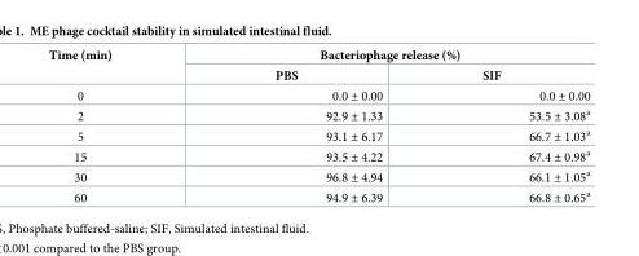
<table><thead><tr><td rowspan="2">Time (min)</td><td colspan="2">Bacteriophage release (%)</td></tr><tr><td>PBS</td><td>SIF</td></tr></thead><tbody><tr><td>0</td><td>0.0 ± 0.00</td><td>0.0 ± 0.00</td></tr><tr><td>2</td><td>92.9 ± 1.33</td><td>53.5 ± 3.08<sup>a</sup></td></tr><tr><td>5</td><td>93.1 ± 6.17</td><td>66.7 ± 1.03<sup>a</sup></td></tr><tr><td>15</td><td>93.5 ± 4.22</td><td>67.4 ± 0.98<sup>a</sup></td></tr><tr><td>30</td><td>96.8 ± 4.94</td><td>66.1 ± 1.05<sup>a</sup></td></tr><tr><td>60</td><td>94.9 ± 6.39</td><td>66.8 ± 0.65<sup>a</sup></td></tr></tbody></table>